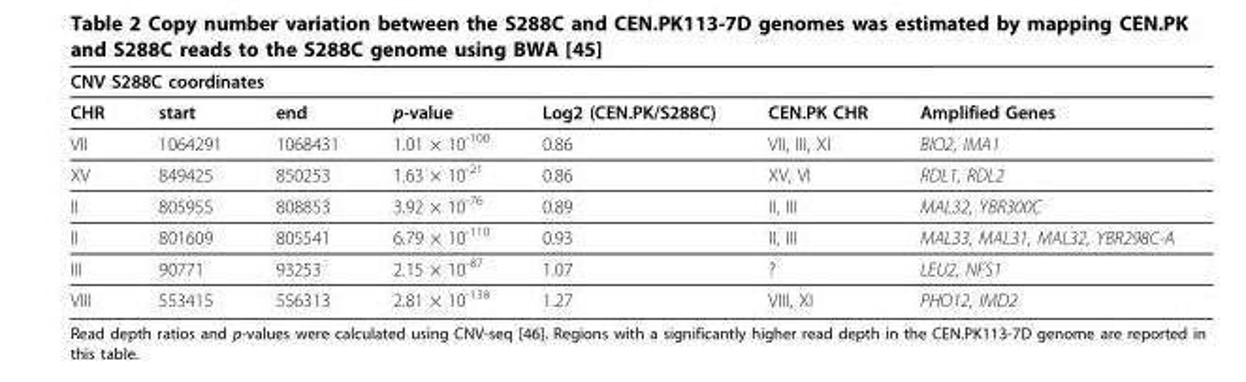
<table><thead><tr><td colspan="3">CNV S288C coordinates</td><td rowspan="2">p-value</td><td rowspan="2">Log2 (CEN.PK/S288C)</td><td rowspan="2">CEN.PK CHR</td><td rowspan="2">Amplified Genes</td></tr><tr><td>CHR</td><td>start</td><td>end</td></tr></thead><tbody><tr><td>VII</td><td>1064291</td><td>1068431</td><td>1.01 × 10<sup>-100</sup></td><td>0.86</td><td>VII, III, XI</td><td>BIO2, IMA1</td></tr><tr><td>XV</td><td>849425</td><td>850253</td><td>1.63 × 10<sup>-21</sup></td><td>0.86</td><td>XV, VI</td><td>RDL1, RDL2</td></tr><tr><td>II</td><td>805955</td><td>808853</td><td>3.92 × 10<sup>-76</sup></td><td>0.89</td><td>II, III</td><td>MAL32, YBR300C</td></tr><tr><td>II</td><td>801609</td><td>805541</td><td>6.79 × 10<sup>-110</sup></td><td>0.93</td><td>II, III</td><td>MAL33, MAL31, MAL32, YBR298C-A</td></tr><tr><td>III</td><td>90771</td><td>93253</td><td>2.15 × 10<sup>-87</sup></td><td>1.07</td><td>?</td><td>LEU2, NFS1</td></tr><tr><td>VIII</td><td>553415</td><td>556313</td><td>2.81 × 10<sup>-138</sup></td><td>1.27</td><td>VIII, XI</td><td>PHO12, IMD2</td></tr></tbody></table>